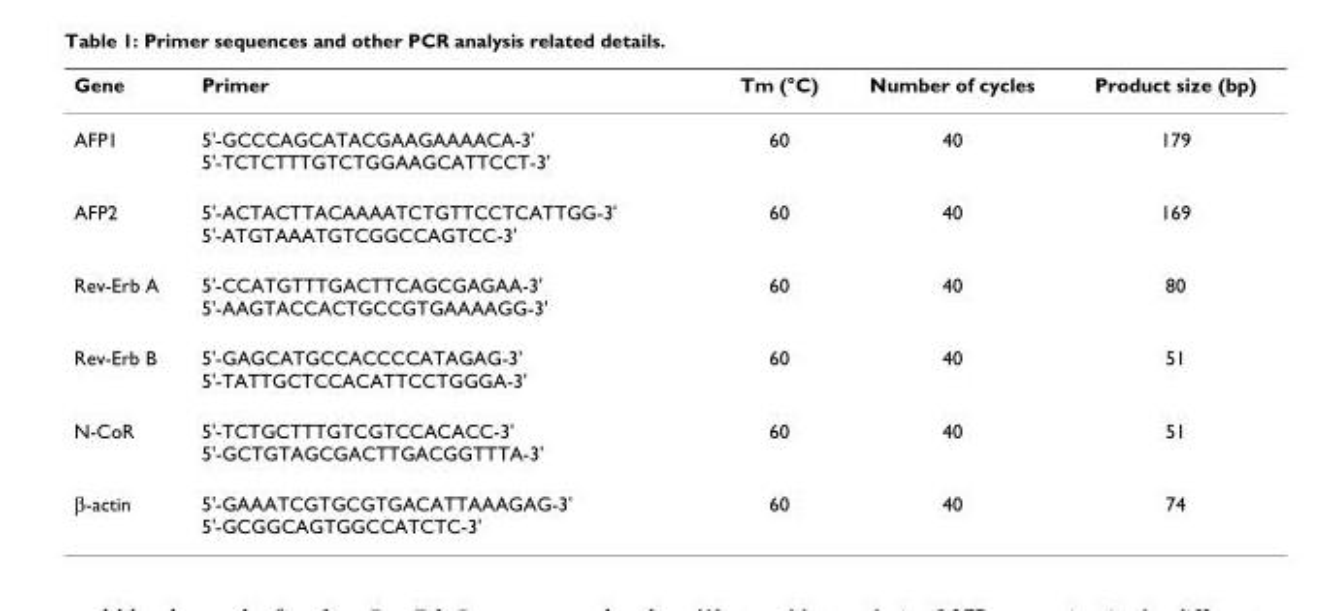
<table><thead><tr><td>Gene</td><td>Primer</td><td>Tm (°C)</td><td>Number of cycles</td><td>Product size (bp)</td></tr></thead><tbody><tr><td>AFP1</td><td>5&#x27;-GCCCAGCATACGAAGAAAACA-3&#x27; 5&#x27;-TCTCTTTGTCTGGAAGCATTCCT-3&#x27;</td><td>60</td><td>40</td><td>179</td></tr><tr><td>AFP2</td><td>5&#x27;-ACTACTTACAAAATCTGTTCCTCATTGG-3&#x27; 5&#x27;-ATGTAAATGTCGGCCAGTCC-3&#x27;</td><td>60</td><td>40</td><td>169</td></tr><tr><td>Rev-Erb A</td><td>5&#x27;-CCATGTTTGACTTCAGCGAGAA-3&#x27; 5&#x27;-AAGTACCACTGCCGTGAAAAGG-3&#x27;</td><td>60</td><td>40</td><td>80</td></tr><tr><td>Rev-Erb B</td><td>5&#x27;-GAGCATGCCACCCCATAGAG-3&#x27; 5&#x27;-TATTGCTCCACATTCCTGGGA-3&#x27;</td><td>60</td><td>40</td><td>51</td></tr><tr><td>N-CoR</td><td>5&#x27;-TCTGCTTTGTCGTCCACACC-3&#x27; 5&#x27;-GCTGTAGCGACTTGACGGTTTA-3&#x27;</td><td>60</td><td>40</td><td>51</td></tr><tr><td>β-actin</td><td>5&#x27;-GAAATCGTGCGTGACATTAAAGAG-3&#x27; 5&#x27;-GCGGCAGTGGCCATCTC-3&#x27;</td><td>60</td><td>40</td><td>74</td></tr></tbody></table>